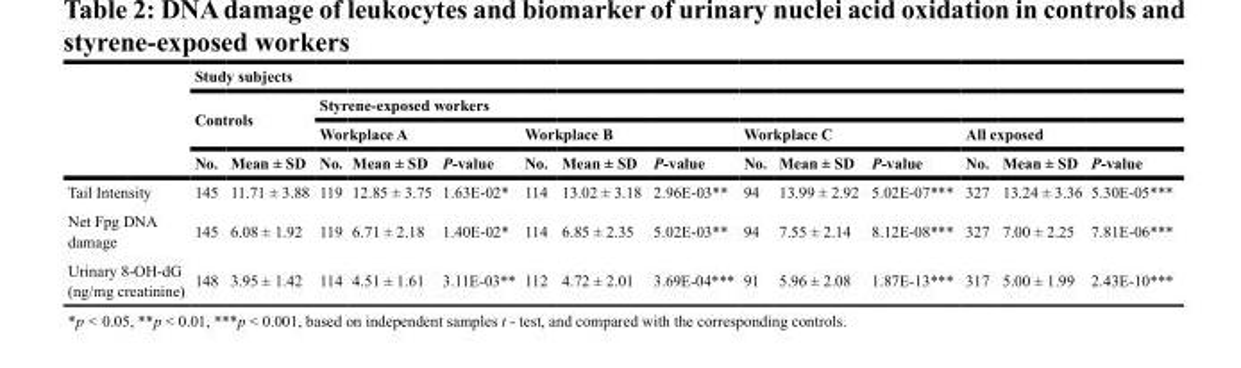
<table><thead><tr><td rowspan="4"></td><td colspan="14">Study subjects</td></tr><tr><td rowspan="2" colspan="2">Controls</td><td colspan="12">Styrene-exposed workers</td></tr><tr><td colspan="3">Workplace A</td><td colspan="3">Workplace B</td><td colspan="3">Workplace C</td><td colspan="3">All exposed</td></tr><tr><td>No.</td><td>Mean ± SD</td><td>No.</td><td>Mean ± SD</td><td>P-value</td><td>No.</td><td>Mean ± SD</td><td>P-value</td><td>No.</td><td>Mean ± SD</td><td>P-value</td><td>No.</td><td>Mean ± SD</td><td>P-value</td></tr></thead><tbody><tr><td>Tail Intensity</td><td>145</td><td>11.71 ± 3.88</td><td>119</td><td>12.85 ± 3.75</td><td>1.63E-02*</td><td>114</td><td>13.02 ± 3.18</td><td>2.96E-03**</td><td>94</td><td>13.99 ± 2.92</td><td>5.02E-07***</td><td>327</td><td>13.24 ± 3.36</td><td>5.30E-05***</td></tr><tr><td>Net Fpg DNA damage</td><td>145</td><td>6.08 ± 1.92</td><td>119</td><td>6.71 ± 2.18</td><td>1.40E-02*</td><td>114</td><td>6.85 ± 2.35</td><td>5.02E-03**</td><td>94</td><td>7.55 ± 2.14</td><td>8.12E-08***</td><td>327</td><td>7.00 ± 2.25</td><td>7.81E-06***</td></tr><tr><td>Urinary 8-OH-dG (ng/mg creatinine)</td><td>148</td><td>3.95 ± 1.42</td><td>114</td><td>4.51 ± 1.61</td><td>3.11E-03**</td><td>112</td><td>4.72 ± 2.01</td><td>3.69E-04***</td><td>91</td><td>5.96 ± 2.08</td><td>1.87E-13***</td><td>317</td><td>5.00 ± 1.99</td><td>2.43E-10***</td></tr></tbody></table>